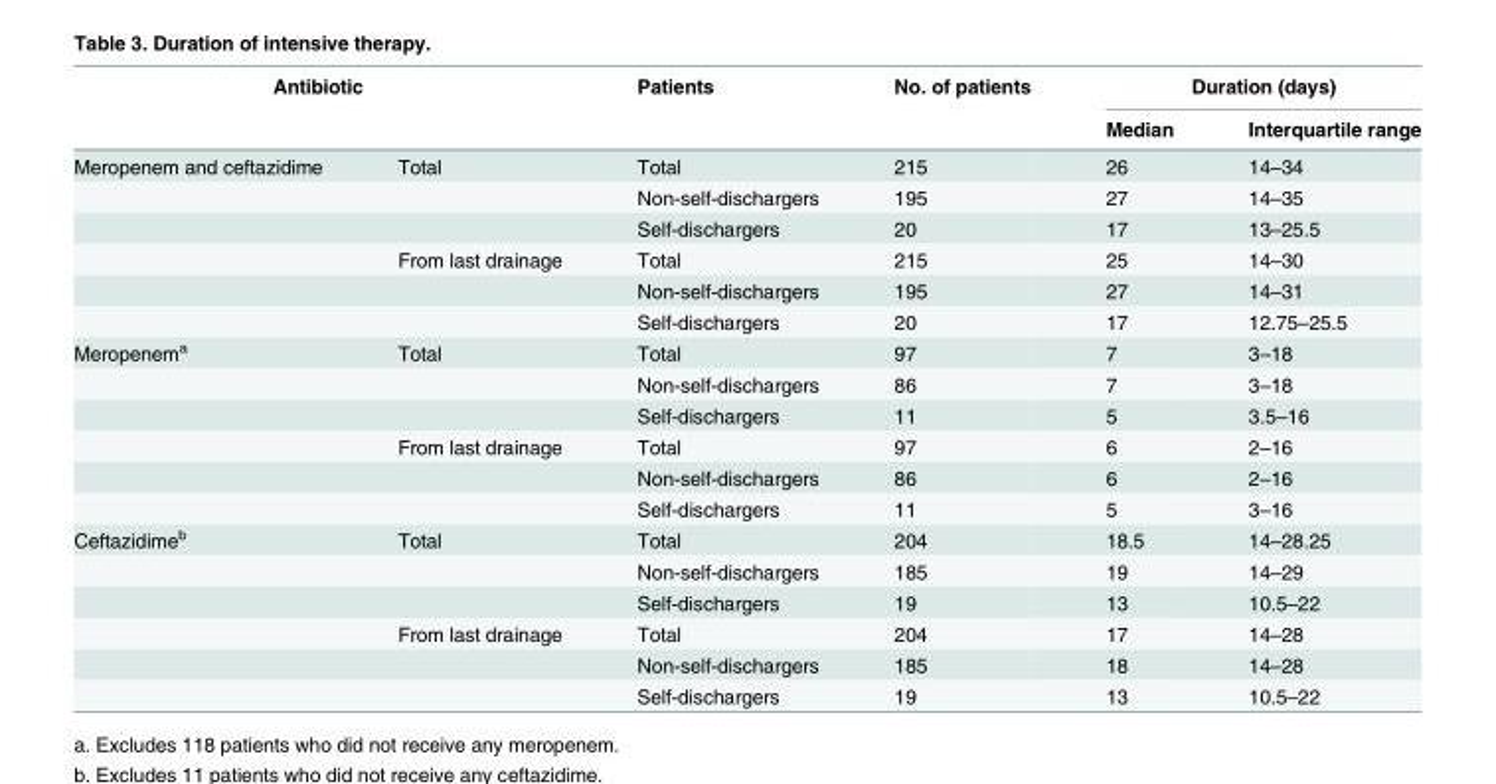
<table><thead><tr><td colspan="2">Antibiotic</td><td rowspan="2">Patients</td><td rowspan="2">No. of patients</td><td colspan="2">Duration (days)</td></tr><tr><td></td><td></td><td>Median</td><td>Interquartile range</td></tr></thead><tbody><tr><td rowspan="6">Meropenem and ceftazidime</td><td>Total</td><td>Total</td><td>215</td><td>26</td><td>14–34</td></tr><tr><td></td><td>Non-self-dischargers</td><td>195</td><td>27</td><td>14–35</td></tr><tr><td></td><td>Self-dischargers</td><td>20</td><td>17</td><td>13–25.5</td></tr><tr><td>From last drainage</td><td>Total</td><td>215</td><td>25</td><td>14–30</td></tr><tr><td></td><td>Non-self-dischargers</td><td>195</td><td>27</td><td>14–31</td></tr><tr><td></td><td>Self-dischargers</td><td>20</td><td>17</td><td>12.75–25.5</td></tr><tr><td rowspan="6">Meropenem<sup>a</sup></td><td>Total</td><td>Total</td><td>97</td><td>7</td><td>3–18</td></tr><tr><td></td><td>Non-self-dischargers</td><td>86</td><td>7</td><td>3–18</td></tr><tr><td></td><td>Self-dischargers</td><td>11</td><td>5</td><td>3.5–16</td></tr><tr><td>From last drainage</td><td>Total</td><td>97</td><td>6</td><td>2–16</td></tr><tr><td></td><td>Non-self-dischargers</td><td>86</td><td>6</td><td>2–16</td></tr><tr><td></td><td>Self-dischargers</td><td>11</td><td>5</td><td>3–16</td></tr><tr><td rowspan="6">Ceftazidime<sup>b</sup></td><td>Total</td><td>Total</td><td>204</td><td>18.5</td><td>14–28.25</td></tr><tr><td></td><td>Non-self-dischargers</td><td>185</td><td>19</td><td>14–29</td></tr><tr><td></td><td>Self-dischargers</td><td>19</td><td>13</td><td>10.5–22</td></tr><tr><td>From last drainage</td><td>Total</td><td>204</td><td>17</td><td>14–28</td></tr><tr><td></td><td>Non-self-dischargers</td><td>185</td><td>18</td><td>14–28</td></tr><tr><td></td><td>Self-dischargers</td><td>19</td><td>13</td><td>10.5–22</td></tr></tbody></table>